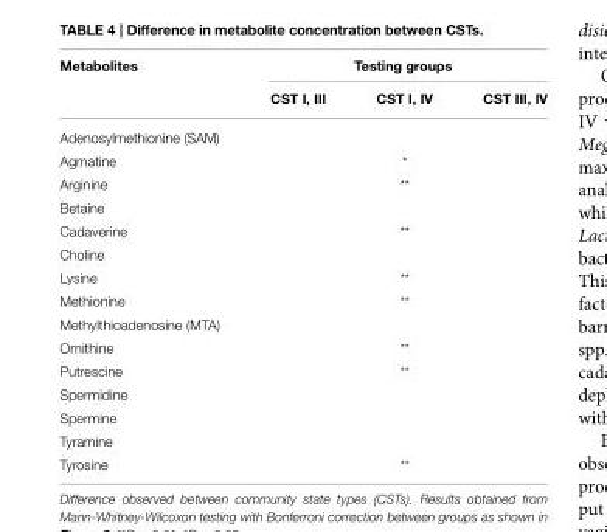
<table><thead><tr><td rowspan="2">Metabolites</td><td colspan="3">Testing groups</td></tr><tr><td>CST I, III</td><td>CST I, IV</td><td>CST III, IV</td></tr></thead><tbody><tr><td colspan="4">Adenosylmethionine (SAM)</td></tr><tr><td>Agmatine</td><td></td><td>*</td><td></td></tr><tr><td>Arginine</td><td></td><td>**</td><td></td></tr><tr><td colspan="4">Betaine</td></tr><tr><td>Cadaverine</td><td></td><td>**</td><td></td></tr><tr><td colspan="4">Choline</td></tr><tr><td>Lysine</td><td></td><td>**</td><td></td></tr><tr><td>Methionine</td><td></td><td>**</td><td></td></tr><tr><td colspan="4">Methylthioadenosine (MTA)</td></tr><tr><td>Ornithine</td><td></td><td>**</td><td></td></tr><tr><td>Putrescine</td><td></td><td>**</td><td></td></tr><tr><td colspan="4">Spermidine</td></tr><tr><td colspan="4">Spermine</td></tr><tr><td colspan="4">Tyramine</td></tr><tr><td>Tyrosine</td><td></td><td>**</td><td></td></tr></tbody></table>